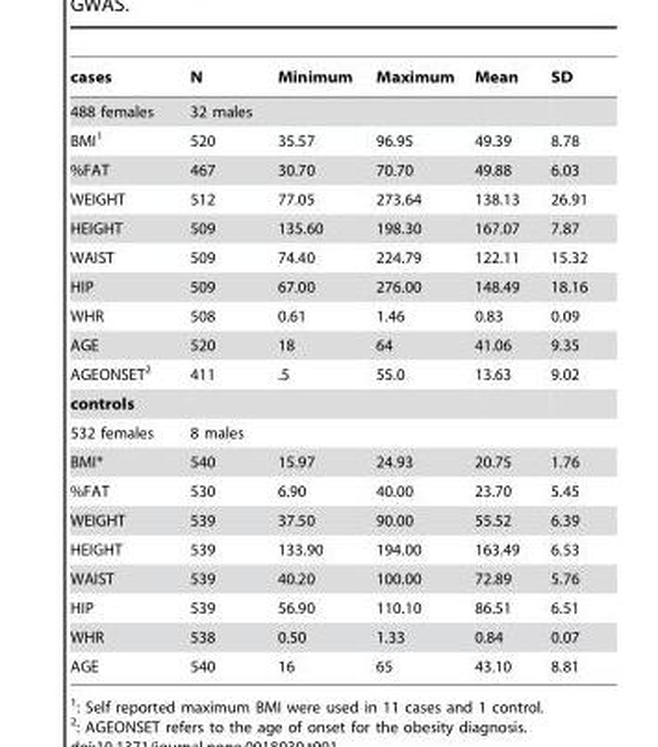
<table><thead><tr><td>cases</td><td>N</td><td>Minimum</td><td>Maximum</td><td>Mean</td><td>SD</td></tr></thead><tbody><tr><td>488 females</td><td>32 males</td><td></td><td></td><td></td><td></td></tr><tr><td>BMI<sup>1</sup></td><td>520</td><td>35.57</td><td>96.95</td><td>49.39</td><td>8.78</td></tr><tr><td>%FAT</td><td>467</td><td>30.70</td><td>70.70</td><td>49.88</td><td>6.03</td></tr><tr><td>WEIGHT</td><td>512</td><td>77.05</td><td>273.64</td><td>138.13</td><td>26.91</td></tr><tr><td>HEIGHT</td><td>509</td><td>135.60</td><td>198.30</td><td>167.07</td><td>7.87</td></tr><tr><td>WAIST</td><td>509</td><td>74.40</td><td>224.79</td><td>122.11</td><td>15.32</td></tr><tr><td>HIP</td><td>509</td><td>67.00</td><td>276.00</td><td>148.49</td><td>18.16</td></tr><tr><td>WHR</td><td>508</td><td>0.61</td><td>1.46</td><td>0.83</td><td>0.09</td></tr><tr><td>AGE</td><td>520</td><td>18</td><td>64</td><td>41.06</td><td>9.35</td></tr><tr><td>AGEONSET<sup>2</sup></td><td>411</td><td>.5</td><td>55.0</td><td>13.63</td><td>9.02</td></tr><tr><td colspan="6">controls</td></tr><tr><td>532 females</td><td>8 males</td><td></td><td></td><td></td><td></td></tr><tr><td>BMI*</td><td>540</td><td>15.97</td><td>24.93</td><td>20.75</td><td>1.76</td></tr><tr><td>%FAT</td><td>530</td><td>6.90</td><td>40.00</td><td>23.70</td><td>5.45</td></tr><tr><td>WEIGHT</td><td>539</td><td>37.50</td><td>90.00</td><td>55.52</td><td>6.39</td></tr><tr><td>HEIGHT</td><td>539</td><td>133.90</td><td>194.00</td><td>163.49</td><td>6.53</td></tr><tr><td>WAIST</td><td>539</td><td>40.20</td><td>100.00</td><td>72.89</td><td>5.76</td></tr><tr><td>HIP</td><td>539</td><td>56.90</td><td>110.10</td><td>86.51</td><td>6.51</td></tr><tr><td>WHR</td><td>538</td><td>0.50</td><td>1.33</td><td>0.84</td><td>0.07</td></tr><tr><td>AGE</td><td>540</td><td>16</td><td>65</td><td>43.10</td><td>8.81</td></tr></tbody></table>